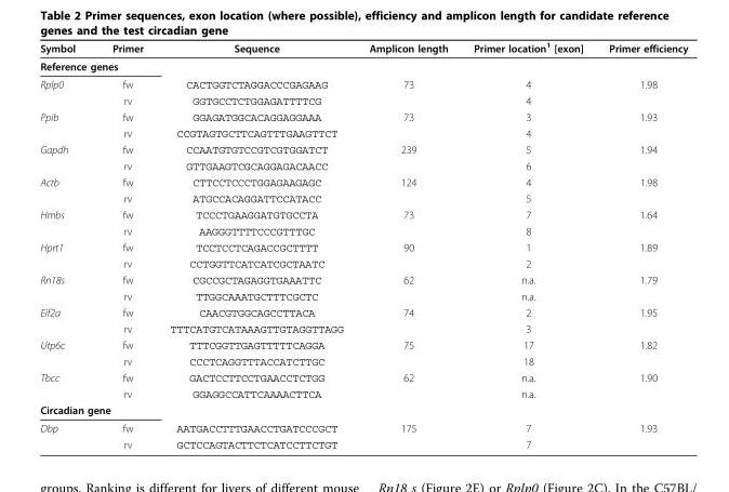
<table><thead><tr><td>Symbol</td><td>Primer</td><td>Sequence</td><td>Amplicon length</td><td>Primer location<sup>1</sup> [exon]</td><td>Primer efficiency</td></tr></thead><tbody><tr><td colspan="6">Reference genes</td></tr><tr><td rowspan="2">Rplp0</td><td>fw</td><td>CACTGGTCTAGGACCCGAGAAG</td><td>73</td><td>4</td><td>1.98</td></tr><tr><td>rv</td><td>GGTGCCTCTGGAGATTTTCG</td><td></td><td>4</td><td></td></tr><tr><td rowspan="2">Ppib</td><td>fw</td><td>GGAGATGGCACAGGAGGAAA</td><td>73</td><td>3</td><td>1.93</td></tr><tr><td>rv</td><td>CCGTAGTGCTTCAGTTTGAAGTTCT</td><td></td><td>4</td><td></td></tr><tr><td rowspan="2">Gapdh</td><td>fw</td><td>CCAATGTGTCCGTCGTGGATCT</td><td>239</td><td>5</td><td>1.94</td></tr><tr><td>rv</td><td>GTTGAAGTCGCAGGAGACAACC</td><td></td><td>6</td><td></td></tr><tr><td rowspan="2">Actb</td><td>fw</td><td>CTTCCTCCCTGGAGAAGAGC</td><td>124</td><td>4</td><td>1.98</td></tr><tr><td>rv</td><td>ATGCCACAGGATTCCATACC</td><td></td><td>5</td><td></td></tr><tr><td rowspan="2">Hmbs</td><td>fw</td><td>TCCCTGAAGGATGTGCCTA</td><td>73</td><td>7</td><td>1.64</td></tr><tr><td>rv</td><td>AAGGGTTTTCCCGTTTGC</td><td></td><td>8</td><td></td></tr><tr><td rowspan="2">Hprt1</td><td>fw</td><td>TCCTCCTCAGACCGCTTTT</td><td>90</td><td>1</td><td>1.89</td></tr><tr><td>rv</td><td>CCTGGTTCATCATCGCTAATC</td><td></td><td>2</td><td></td></tr><tr><td rowspan="2">Rn18s</td><td>fw</td><td>CGCCGCTAGAGGTGAAATTC</td><td>62</td><td>n.a.</td><td>1.79</td></tr><tr><td>rv</td><td>TTGGCAAATGCTTTCGCTC</td><td></td><td>n.a.</td><td></td></tr><tr><td rowspan="2">Eif2a</td><td>fw</td><td>CAACGTGGCAGCCTTACA</td><td>74</td><td>2</td><td>1.95</td></tr><tr><td>rv</td><td>TTTCATGTCATAAAGTTGTAGGTTAGG</td><td></td><td>3</td><td></td></tr><tr><td rowspan="2">Utp6c</td><td>fw</td><td>TTTCGGTTGAGTTTTTCAGGA</td><td>75</td><td>17</td><td>1.82</td></tr><tr><td>rv</td><td>CCCTCAGGTTTACCATCTTGC</td><td></td><td>18</td><td></td></tr><tr><td rowspan="2">Tbcc</td><td>fw</td><td>GACTCCTTCCTGAACCTCTGG</td><td>62</td><td>n.a.</td><td>1.90</td></tr><tr><td>rv</td><td>GGAGGCCATTCAAAACTTCA</td><td></td><td>n.a.</td><td></td></tr><tr><td colspan="6">Circadian gene</td></tr><tr><td rowspan="2">Dbp</td><td>fw</td><td>AATGACCTTTGAACCTGATCCCGCT</td><td>175</td><td>7</td><td>1.93</td></tr><tr><td>rv</td><td>GCTCCAGTACTTCTCATCCTTCTGT</td><td></td><td>7</td><td></td></tr></tbody></table>